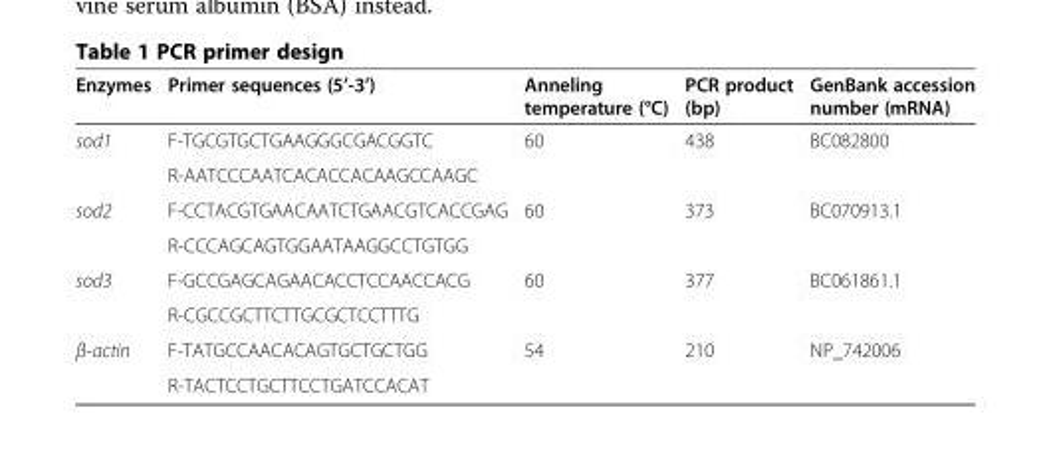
<table><thead><tr><td>Enzymes</td><td>Primer sequences (5’-3’)</td><td>Anneling temperature (°C)</td><td>PCR product (bp)</td><td>GenBank accession number (mRNA)</td></tr></thead><tbody><tr><td rowspan="2">sod1</td><td>F-TGCGTGCTGAAGGGCGACGGTC</td><td rowspan="2">60</td><td rowspan="2">438</td><td rowspan="2">BC082800</td></tr><tr><td>R-AATCCCAATCACACCACAAGCCAAGC</td></tr><tr><td rowspan="2">sod2</td><td>F-CCTACGTGAACAATCTGAACGTCACCGAG</td><td rowspan="2">60</td><td rowspan="2">373</td><td rowspan="2">BC070913.1</td></tr><tr><td>R-CCCAGCAGTGGAATAAGGCCTGTGG</td></tr><tr><td rowspan="2">sod3</td><td>F-GCCGAGCAGAACACCTCCAACCACG</td><td rowspan="2">60</td><td rowspan="2">377</td><td rowspan="2">BC061861.1</td></tr><tr><td>R-CGCCGCTTCTTGCGCTCCTTTG</td></tr><tr><td rowspan="2">β-actin</td><td>F-TATGCCAACACAGTGCTGCTGG</td><td>54</td><td>210</td><td>NP_742006</td></tr><tr><td>R-TACTCCTGCTTCCTGATCCACAT</td><td></td><td></td><td></td></tr></tbody></table>